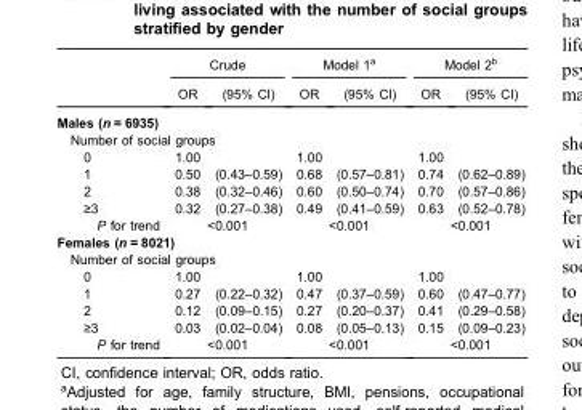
<table><thead><tr><td rowspan="2"></td><td colspan="2">Crude</td><td colspan="2">Model 1<sup>a</sup></td><td colspan="2">Model 2<sup>b</sup></td></tr><tr><td>OR</td><td>(95% CI)</td><td>OR</td><td>(95% CI)</td><td>OR</td><td>(95% CI)</td></tr></thead><tbody><tr><td colspan="7">Males (n = 6935)</td></tr><tr><td colspan="7">Number of social groups</td></tr><tr><td>0</td><td>1.00</td><td></td><td>1.00</td><td></td><td>1.00</td><td></td></tr><tr><td>1</td><td>0.50</td><td>(0.43–0.59)</td><td>0.68</td><td>(0.57–0.81)</td><td>0.74</td><td>(0.62–0.89)</td></tr><tr><td>2</td><td>0.38</td><td>(0.32–0.46)</td><td>0.60</td><td>(0.50–0.74)</td><td>0.70</td><td>(0.57–0.86)</td></tr><tr><td>≥3</td><td>0.32</td><td>(0.27–0.38)</td><td>0.49</td><td>(0.41–0.59)</td><td>0.63</td><td>(0.52–0.78)</td></tr><tr><td>P for trend</td><td colspan="2">&lt;0.001</td><td colspan="2">&lt;0.001</td><td colspan="2">&lt;0.001</td></tr><tr><td colspan="7">Females (n = 8021)</td></tr><tr><td colspan="7">Number of social groups</td></tr><tr><td>0</td><td>1.00</td><td></td><td>1.00</td><td></td><td>1.00</td><td></td></tr><tr><td>1</td><td>0.27</td><td>(0.22–0.32)</td><td>0.47</td><td>(0.37–0.59)</td><td>0.60</td><td>(0.47–0.77)</td></tr><tr><td>2</td><td>0.12</td><td>(0.09–0.15)</td><td>0.27</td><td>(0.20–0.37)</td><td>0.41</td><td>(0.29–0.58)</td></tr><tr><td>≥3</td><td>0.03</td><td>(0.02–0.04)</td><td>0.08</td><td>(0.05–0.13)</td><td>0.15</td><td>(0.09–0.23)</td></tr><tr><td>P for trend</td><td colspan="2">&lt;0.001</td><td colspan="2">&lt;0.001</td><td colspan="2">&lt;0.001</td></tr></tbody></table>